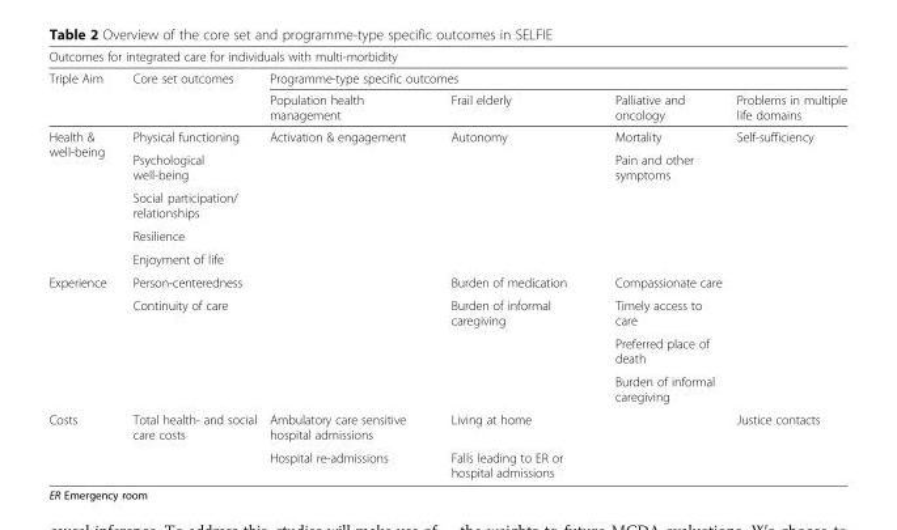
<table><thead><tr><td colspan="6">Outcomes for integrated care for individuals with multi-morbidity</td></tr><tr><td rowspan="2">Triple Aim</td><td rowspan="2">Core set outcomes</td><td colspan="4">Programme-type specific outcomes</td></tr><tr><td>Population health management</td><td>Frail elderly</td><td>Palliative and oncology</td><td>Problems in multiple life domains</td></tr></thead><tbody><tr><td rowspan="5">Health &amp; well-being</td><td>Physical functioning</td><td>Activation &amp; engagement</td><td>Autonomy</td><td>Mortality</td><td>Self-sufficiency</td></tr><tr><td>Psychological well-being</td><td rowspan="4"></td><td rowspan="4"></td><td>Pain and other symptoms</td><td rowspan="4"></td></tr><tr><td>Social participation/ relationships</td><td rowspan="3"></td></tr><tr><td>Resilience</td></tr><tr><td>Enjoyment of life</td></tr><tr><td rowspan="4">Experience</td><td>Person-centeredness</td><td rowspan="4"></td><td>Burden of medication</td><td>Compassionate care</td><td rowspan="4"></td></tr><tr><td>Continuity of care</td><td>Burden of informal caregiving</td><td>Timely access to care</td></tr><tr><td rowspan="2"></td><td rowspan="2"></td><td>Preferred place of death</td></tr><tr><td>Burden of informal caregiving</td></tr><tr><td rowspan="2">Costs</td><td>Total health- and social care costs</td><td>Ambulatory care sensitive hospital admissions</td><td>Living at home</td><td rowspan="2"></td><td>Justice contacts</td></tr><tr><td></td><td>Hospital re-admissions</td><td>Falls leading to ER or hospital admissions</td><td></td></tr></tbody></table>